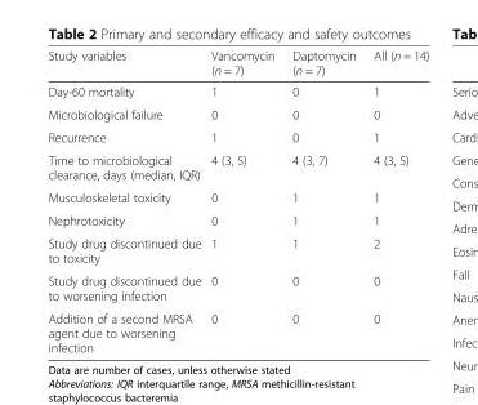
<table><thead><tr><td>Study variables</td><td>Vancomycin (n = 7)</td><td>Daptomycin (n = 7)</td><td>All (n = 14)</td></tr></thead><tbody><tr><td>Day-60 mortality</td><td>1</td><td>0</td><td>1</td></tr><tr><td>Microbiological failure</td><td>0</td><td>0</td><td>0</td></tr><tr><td>Recurrence</td><td>1</td><td>0</td><td>1</td></tr><tr><td>Time to microbiological clearance, days (median, IQR)</td><td>4 (3, 5)</td><td>4 (3, 7)</td><td>4 (3, 5)</td></tr><tr><td>Musculoskeletal toxicity</td><td>0</td><td>1</td><td>1</td></tr><tr><td>Nephrotoxicity</td><td>0</td><td>1</td><td>1</td></tr><tr><td>Study drug discontinued due to toxicity</td><td>1</td><td>1</td><td>2</td></tr><tr><td>Study drug discontinued due to worsening infection</td><td>0</td><td>0</td><td>0</td></tr><tr><td>Addition of a second MRSA agent due to worsening infection</td><td>0</td><td>0</td><td>0</td></tr></tbody></table>